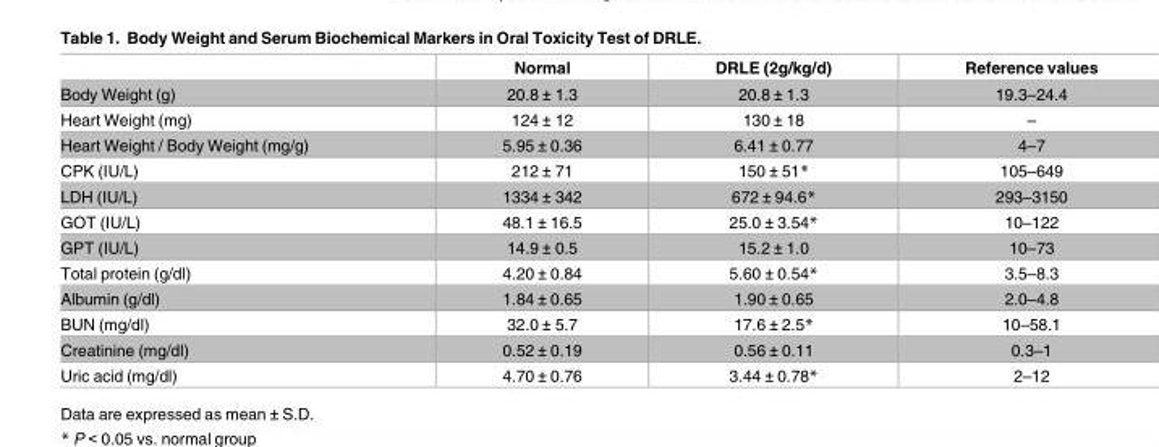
<table><thead><tr><td></td><td>Normal</td><td>DRLE (2g/kg/d)</td><td>Reference values</td></tr></thead><tbody><tr><td>Body Weight (g)</td><td>20.8 ± 1.3</td><td>20.8 ± 1.3</td><td>19.3–24.4</td></tr><tr><td>Heart Weight (mg)</td><td>124 ± 12</td><td>130 ± 18</td><td>–</td></tr><tr><td>Heart Weight / Body Weight (mg/g)</td><td>5.95 ± 0.36</td><td>6.41 ± 0.77</td><td>4–7</td></tr><tr><td>CPK (IU/L)</td><td>212 ± 71</td><td>150 ± 51*</td><td>105–649</td></tr><tr><td>LDH (IU/L)</td><td>1334 ± 342</td><td>672 ± 94.6*</td><td>293–3150</td></tr><tr><td>GOT (IU/L)</td><td>48.1 ± 16.5</td><td>25.0 ± 3.54*</td><td>10–122</td></tr><tr><td>GPT (IU/L)</td><td>14.9 ± 0.5</td><td>15.2 ± 1.0</td><td>10–73</td></tr><tr><td>Total protein (g/dl)</td><td>4.20 ± 0.84</td><td>5.60 ± 0.54*</td><td>3.5–8.3</td></tr><tr><td>Albumin (g/dl)</td><td>1.84 ± 0.65</td><td>1.90 ± 0.65</td><td>2.0–4.8</td></tr><tr><td>BUN (mg/dl)</td><td>32.0 ± 5.7</td><td>17.6 ± 2.5*</td><td>10–58.1</td></tr><tr><td>Creatinine (mg/dl)</td><td>0.52 ± 0.19</td><td>0.56 ± 0.11</td><td>0.3–1</td></tr><tr><td>Uric acid (mg/dl)</td><td>4.70 ± 0.76</td><td>3.44 ± 0.78*</td><td>2–12</td></tr></tbody></table>